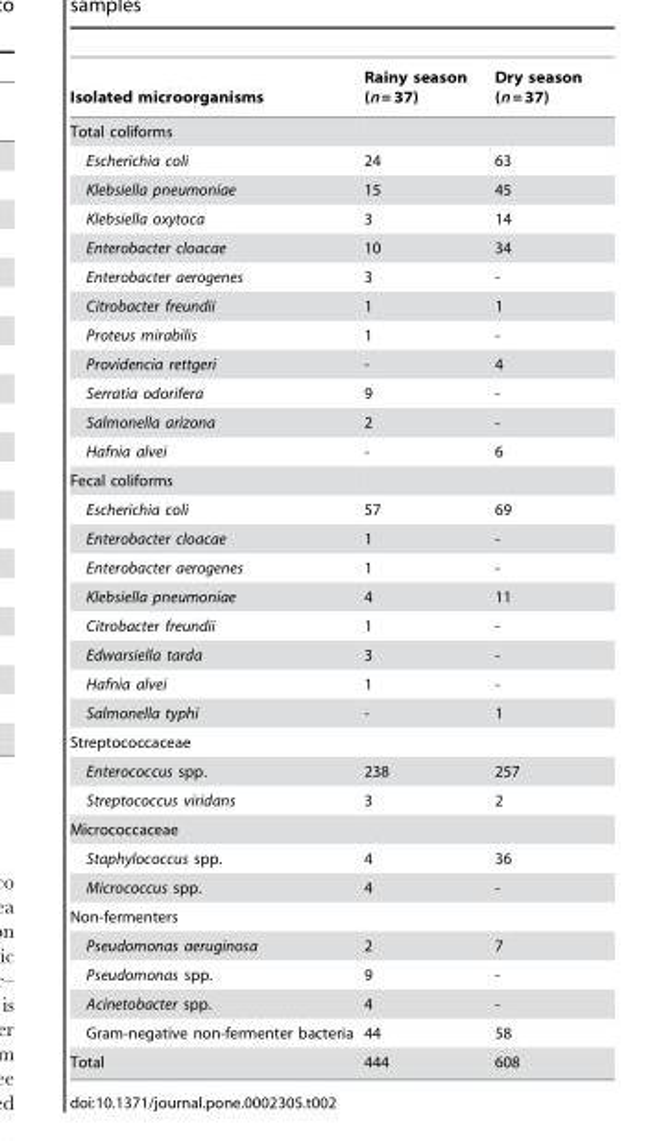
<table><thead><tr><td>Isolated microorganisms</td><td>Rainy season (n = 37)</td><td>Dry season (n = 37)</td></tr></thead><tbody><tr><td colspan="3">Total coliforms</td></tr><tr><td>Escherichia coli</td><td>24</td><td>63</td></tr><tr><td>Klebsiella pneumoniae</td><td>15</td><td>45</td></tr><tr><td>Klebsiella oxytoca</td><td>3</td><td>14</td></tr><tr><td>Enterobacter cloacae</td><td>10</td><td>34</td></tr><tr><td>Enterobacter aerogenes</td><td>3</td><td>-</td></tr><tr><td>Citrobacter freundii</td><td>1</td><td>1</td></tr><tr><td>Proteus mirabilis</td><td>1</td><td>-</td></tr><tr><td>Providencia rettgeri</td><td>-</td><td>4</td></tr><tr><td>Serratia odorifera</td><td>9</td><td>-</td></tr><tr><td>Salmonella arizona</td><td>2</td><td>-</td></tr><tr><td>Hafnia alvei</td><td>-</td><td>6</td></tr><tr><td colspan="3">Fecal coliforms</td></tr><tr><td>Escherichia coli</td><td>57</td><td>69</td></tr><tr><td>Enterobacter cloacae</td><td>1</td><td>-</td></tr><tr><td>Enterobacter aerogenes</td><td>1</td><td>-</td></tr><tr><td>Klebsiella pneumoniae</td><td>4</td><td>11</td></tr><tr><td>Citrobacter freundii</td><td>1</td><td>-</td></tr><tr><td>Edwarsiella tarda</td><td>3</td><td>-</td></tr><tr><td>Hafnia alvei</td><td>1</td><td>-</td></tr><tr><td>Salmonella typhi</td><td>-</td><td>1</td></tr><tr><td colspan="3">Streptococcaceae</td></tr><tr><td>Enterococcus spp.</td><td>238</td><td>257</td></tr><tr><td>Streptococcus viridans</td><td>3</td><td>2</td></tr><tr><td colspan="3">Micrococcaceae</td></tr><tr><td>Staphylococcus spp.</td><td>4</td><td>36</td></tr><tr><td>Micrococcus spp.</td><td>4</td><td>-</td></tr><tr><td colspan="3">Non-fermenters</td></tr><tr><td>Pseudomonas aeruginosa</td><td>2</td><td>7</td></tr><tr><td>Pseudomonas spp.</td><td>9</td><td>-</td></tr><tr><td>Acinetobacter spp.</td><td>4</td><td>-</td></tr><tr><td>Gram-negative non-fermenter bacteria</td><td>44</td><td>58</td></tr><tr><td>Total</td><td>444</td><td>608</td></tr></tbody></table>